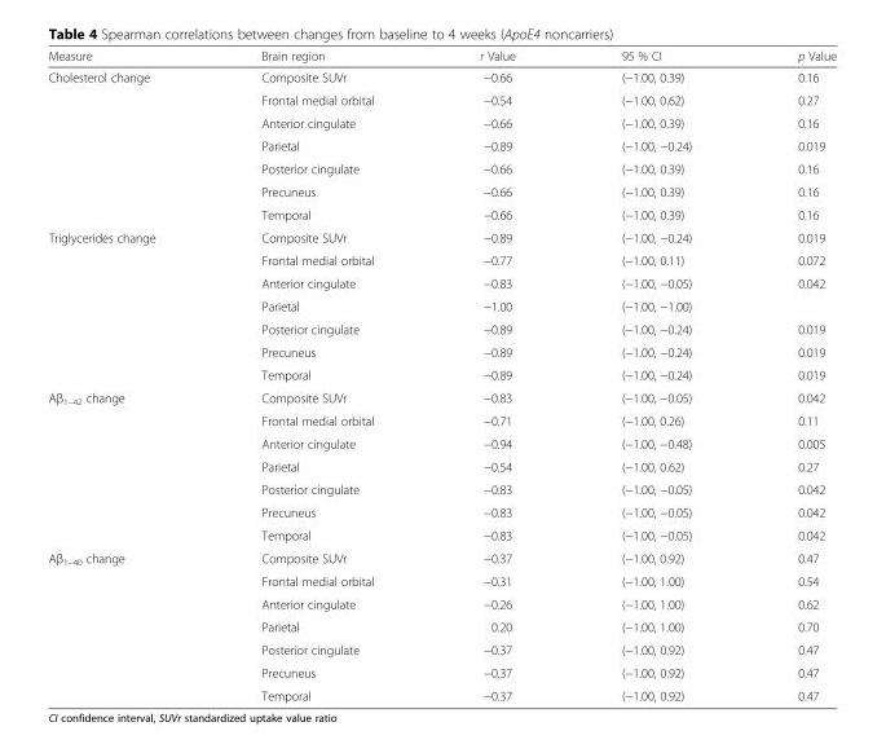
<table><thead><tr><td>Measure</td><td>Brain region</td><td>r Value</td><td>95 % CI</td><td>p Value</td></tr></thead><tbody><tr><td rowspan="7">Cholesterol change</td><td>Composite SUVr</td><td>−0.66</td><td>(−1.00, 0.39)</td><td>0.16</td></tr><tr><td>Frontal medial orbital</td><td>−0.54</td><td>(−1.00, 0.62)</td><td>0.27</td></tr><tr><td>Anterior cingulate</td><td>−0.66</td><td>(−1.00, 0.39)</td><td>0.16</td></tr><tr><td>Parietal</td><td>−0.89</td><td>(−1.00, −0.24)</td><td>0.019</td></tr><tr><td>Posterior cingulate</td><td>−0.66</td><td>(−1.00, 0.39)</td><td>0.16</td></tr><tr><td>Precuneus</td><td>−0.66</td><td>(−1.00, 0.39)</td><td>0.16</td></tr><tr><td>Temporal</td><td>−0.66</td><td>(−1.00, 0.39)</td><td>0.16</td></tr><tr><td rowspan="7">Triglycerides change</td><td>Composite SUVr</td><td>−0.89</td><td>(−1.00, −0.24)</td><td>0.019</td></tr><tr><td>Frontal medial orbital</td><td>−0.77</td><td>(−1.00, 0.11)</td><td>0.072</td></tr><tr><td>Anterior cingulate</td><td>−0.83</td><td>(−1.00, −0.05)</td><td>0.042</td></tr><tr><td>Parietal</td><td>−1.00</td><td>(−1.00, −1.00)</td><td></td></tr><tr><td>Posterior cingulate</td><td>−0.89</td><td>(−1.00, −0.24)</td><td>0.019</td></tr><tr><td>Precuneus</td><td>−0.89</td><td>(−1.00, −0.24)</td><td>0.019</td></tr><tr><td>Temporal</td><td>−0.89</td><td>(−1.00, −0.24)</td><td>0.019</td></tr><tr><td rowspan="7">Aβ<sub>1–42</sub> change</td><td>Composite SUVr</td><td>−0.83</td><td>(−1.00, −0.05)</td><td>0.042</td></tr><tr><td>Frontal medial orbital</td><td>−0.71</td><td>(−1.00, 0.26)</td><td>0.11</td></tr><tr><td>Anterior cingulate</td><td>−0.94</td><td>(−1.00, −0.48)</td><td>0.005</td></tr><tr><td>Parietal</td><td>−0.54</td><td>(−1.00, 0.62)</td><td>0.27</td></tr><tr><td>Posterior cingulate</td><td>−0.83</td><td>(−1.00, −0.05)</td><td>0.042</td></tr><tr><td>Precuneus</td><td>−0.83</td><td>(−1.00, −0.05)</td><td>0.042</td></tr><tr><td>Temporal</td><td>−0.83</td><td>(−1.00, −0.05)</td><td>0.042</td></tr><tr><td rowspan="7">Aβ<sub>1–40</sub> change</td><td>Composite SUVr</td><td>−0.37</td><td>(−1.00, 0.92)</td><td>0.47</td></tr><tr><td>Frontal medial orbital</td><td>−0.31</td><td>(−1.00, 1.00)</td><td>0.54</td></tr><tr><td>Anterior cingulate</td><td>−0.26</td><td>(−1.00, 1.00)</td><td>0.62</td></tr><tr><td>Parietal</td><td>0.20</td><td>(−1.00, 1.00)</td><td>0.70</td></tr><tr><td>Posterior cingulate</td><td>−0.37</td><td>(−1.00, 0.92)</td><td>0.47</td></tr><tr><td>Precuneus</td><td>−0.37</td><td>(−1.00, 0.92)</td><td>0.47</td></tr><tr><td>Temporal</td><td>−0.37</td><td>(−1.00, 0.92)</td><td>0.47</td></tr></tbody></table>